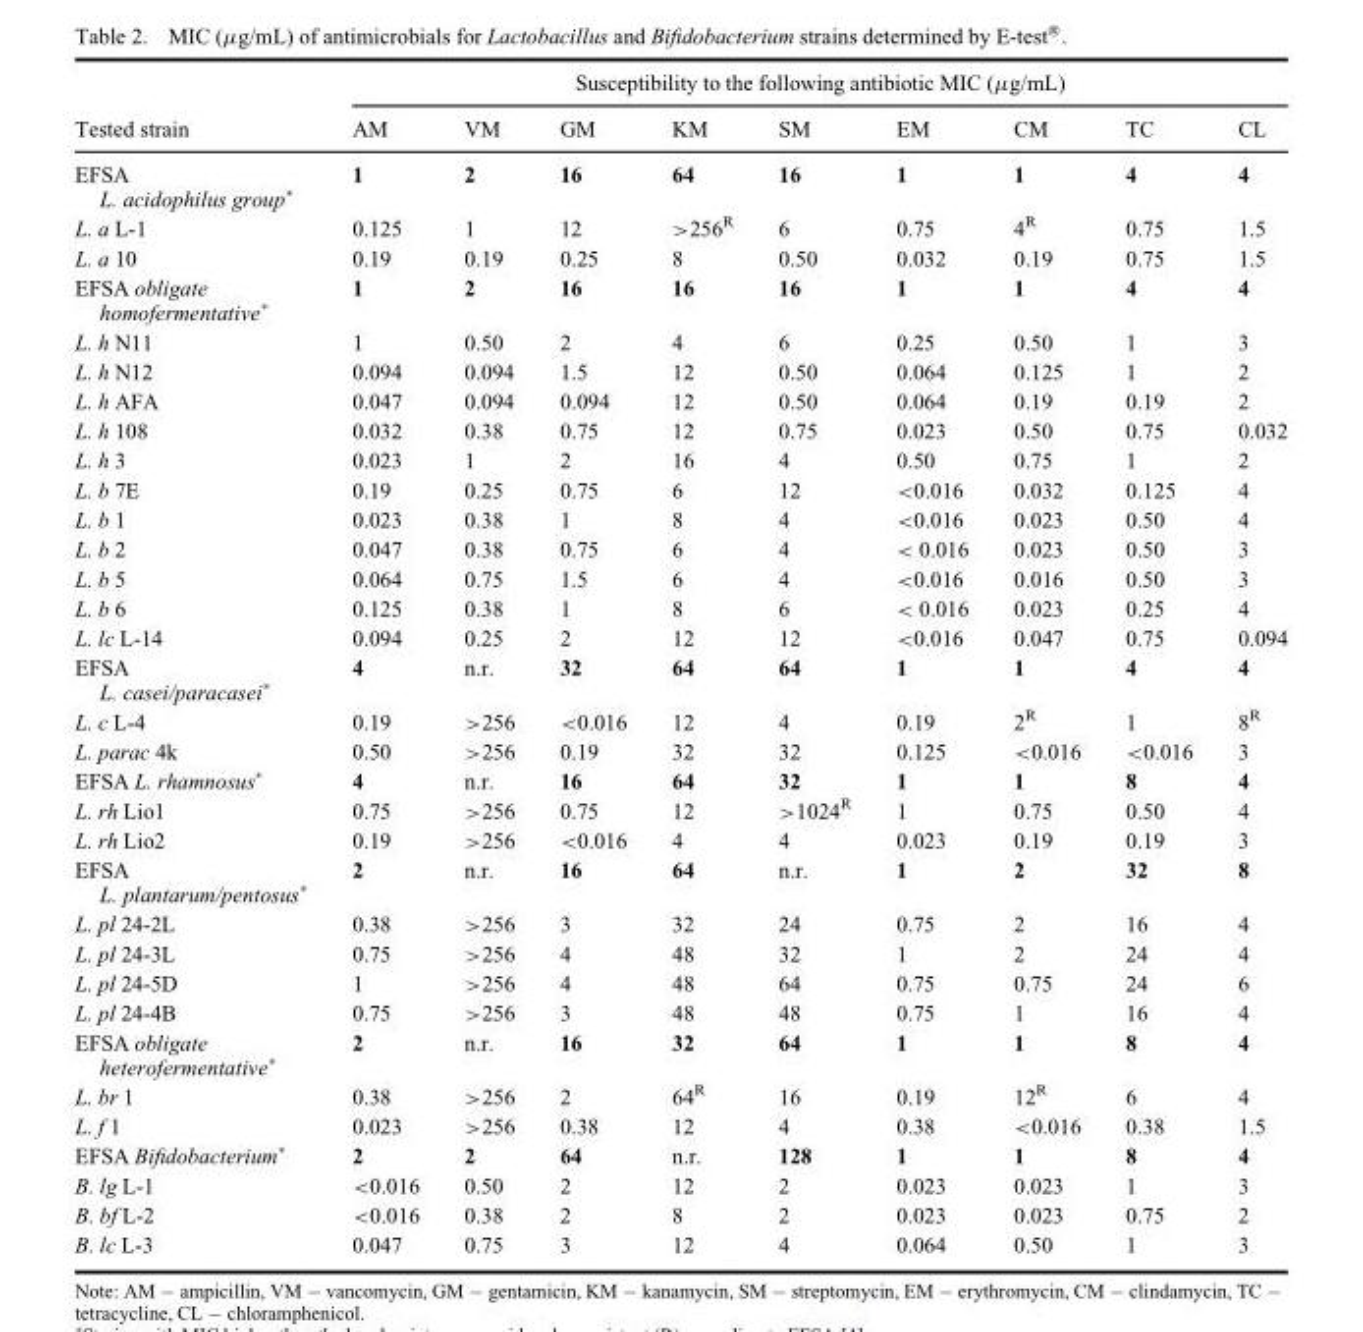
<table><thead><tr><td rowspan="2">Tested strain</td><td colspan="9">Susceptibility to the following antibiotic MIC (μg/mL)</td></tr><tr><td>AM</td><td>VM</td><td>GM</td><td>KM</td><td>SM</td><td>EM</td><td>CM</td><td>TC</td><td>CL</td></tr></thead><tbody><tr><td>EFSA L. acidophilus group*</td><td>1</td><td>2</td><td>16</td><td>64</td><td>16</td><td>1</td><td>1</td><td>4</td><td>4</td></tr><tr><td>L. a L-1</td><td>0.125</td><td>1</td><td>12</td><td>&gt;256<sup>R</sup></td><td>6</td><td>0.75</td><td>4<sup>R</sup></td><td>0.75</td><td>1.5</td></tr><tr><td>L. a 10</td><td>0.19</td><td>0.19</td><td>0.25</td><td>8</td><td>0.50</td><td>0.032</td><td>0.19</td><td>0.75</td><td>1.5</td></tr><tr><td>EFSA obligate homofermentative*</td><td>1</td><td>2</td><td>16</td><td>16</td><td>16</td><td>1</td><td>1</td><td>4</td><td>4</td></tr><tr><td>L. h N11</td><td>1</td><td>0.50</td><td>2</td><td>4</td><td>6</td><td>0.25</td><td>0.50</td><td>1</td><td>3</td></tr><tr><td>L. h N12</td><td>0.094</td><td>0.094</td><td>1.5</td><td>12</td><td>0.50</td><td>0.064</td><td>0.125</td><td>1</td><td>2</td></tr><tr><td>L. h AFA</td><td>0.047</td><td>0.094</td><td>0.094</td><td>12</td><td>0.50</td><td>0.064</td><td>0.19</td><td>0.19</td><td>2</td></tr><tr><td>L. h 108</td><td>0.032</td><td>0.38</td><td>0.75</td><td>12</td><td>0.75</td><td>0.023</td><td>0.50</td><td>0.75</td><td>0.032</td></tr><tr><td>L. h 3</td><td>0.023</td><td>1</td><td>2</td><td>16</td><td>4</td><td>0.50</td><td>0.75</td><td>1</td><td>2</td></tr><tr><td>L. b 7E</td><td>0.19</td><td>0.25</td><td>0.75</td><td>6</td><td>12</td><td>&lt;0.016</td><td>0.032</td><td>0.125</td><td>4</td></tr><tr><td>L. b 1</td><td>0.023</td><td>0.38</td><td>1</td><td>8</td><td>4</td><td>&lt;0.016</td><td>0.023</td><td>0.50</td><td>4</td></tr><tr><td>L. b 2</td><td>0.047</td><td>0.38</td><td>0.75</td><td>6</td><td>4</td><td>&lt; 0.016</td><td>0.023</td><td>0.50</td><td>3</td></tr><tr><td>L. b 5</td><td>0.064</td><td>0.75</td><td>1.5</td><td>6</td><td>4</td><td>&lt;0.016</td><td>0.016</td><td>0.50</td><td>3</td></tr><tr><td>L. b 6</td><td>0.125</td><td>0.38</td><td>1</td><td>8</td><td>6</td><td>&lt; 0.016</td><td>0.023</td><td>0.25</td><td>4</td></tr><tr><td>L. lc L-14</td><td>0.094</td><td>0.25</td><td>2</td><td>12</td><td>12</td><td>&lt;0.016</td><td>0.047</td><td>0.75</td><td>0.094</td></tr><tr><td>EFSA L. casei/paracasei*</td><td>4</td><td>n.r.</td><td>32</td><td>64</td><td>64</td><td>1</td><td>1</td><td>4</td><td>4</td></tr><tr><td>L. c L-4</td><td>0.19</td><td>&gt;256</td><td>&lt;0.016</td><td>12</td><td>4</td><td>0.19</td><td>2<sup>R</sup></td><td>1</td><td>8<sup>R</sup></td></tr><tr><td>L. parac 4k</td><td>0.50</td><td>&gt;256</td><td>0.19</td><td>32</td><td>32</td><td>0.125</td><td>&lt;0.016</td><td>&lt;0.016</td><td>3</td></tr><tr><td>EFSA L. rhamnosus*</td><td>4</td><td>n.r.</td><td>16</td><td>64</td><td>32</td><td>1</td><td>1</td><td>8</td><td>4</td></tr><tr><td>L. rh Lio1</td><td>0.75</td><td>&gt;256</td><td>0.75</td><td>12</td><td>&gt;1024<sup>R</sup></td><td>1</td><td>0.75</td><td>0.50</td><td>4</td></tr><tr><td>L. rh Lio2</td><td>0.19</td><td>&gt;256</td><td>&lt;0.016</td><td>4</td><td>4</td><td>0.023</td><td>0.19</td><td>0.19</td><td>3</td></tr><tr><td>EFSA L. plantarum/pentosus*</td><td>2</td><td>n.r.</td><td>16</td><td>64</td><td>n.r.</td><td>1</td><td>2</td><td>32</td><td>8</td></tr><tr><td>L. pl 24-2L</td><td>0.38</td><td>&gt;256</td><td>3</td><td>32</td><td>24</td><td>0.75</td><td>2</td><td>16</td><td>4</td></tr><tr><td>L. pl 24-3L</td><td>0.75</td><td>&gt;256</td><td>4</td><td>48</td><td>32</td><td>1</td><td>2</td><td>24</td><td>4</td></tr><tr><td>L. pl 24-5D</td><td>1</td><td>&gt;256</td><td>4</td><td>48</td><td>64</td><td>0.75</td><td>0.75</td><td>24</td><td>6</td></tr><tr><td>L. pl 24-4B</td><td>0.75</td><td>&gt;256</td><td>3</td><td>48</td><td>48</td><td>0.75</td><td>1</td><td>16</td><td>4</td></tr><tr><td>EFSA obligate heterofermentative*</td><td>2</td><td>n.r.</td><td>16</td><td>32</td><td>64</td><td>1</td><td>1</td><td>8</td><td>4</td></tr><tr><td>L. br 1</td><td>0.38</td><td>&gt;256</td><td>2</td><td>64<sup>R</sup></td><td>16</td><td>0.19</td><td>12<sup>R</sup></td><td>6</td><td>4</td></tr><tr><td>L. f 1</td><td>0.023</td><td>&gt;256</td><td>0.38</td><td>12</td><td>4</td><td>0.38</td><td>&lt;0.016</td><td>0.38</td><td>1.5</td></tr><tr><td>EFSA Bifidobacterium*</td><td>2</td><td>2</td><td>64</td><td>n.r.</td><td>128</td><td>1</td><td>1</td><td>8</td><td>4</td></tr><tr><td>B. lg L-1</td><td>&lt;0.016</td><td>0.50</td><td>2</td><td>12</td><td>2</td><td>0.023</td><td>0.023</td><td>1</td><td>3</td></tr><tr><td>B. bf L-2</td><td>&lt;0.016</td><td>0.38</td><td>2</td><td>8</td><td>2</td><td>0.023</td><td>0.023</td><td>0.75</td><td>2</td></tr><tr><td>B. lc L-3</td><td>0.047</td><td>0.75</td><td>3</td><td>12</td><td>4</td><td>0.064</td><td>0.50</td><td>1</td><td>3</td></tr></tbody></table>